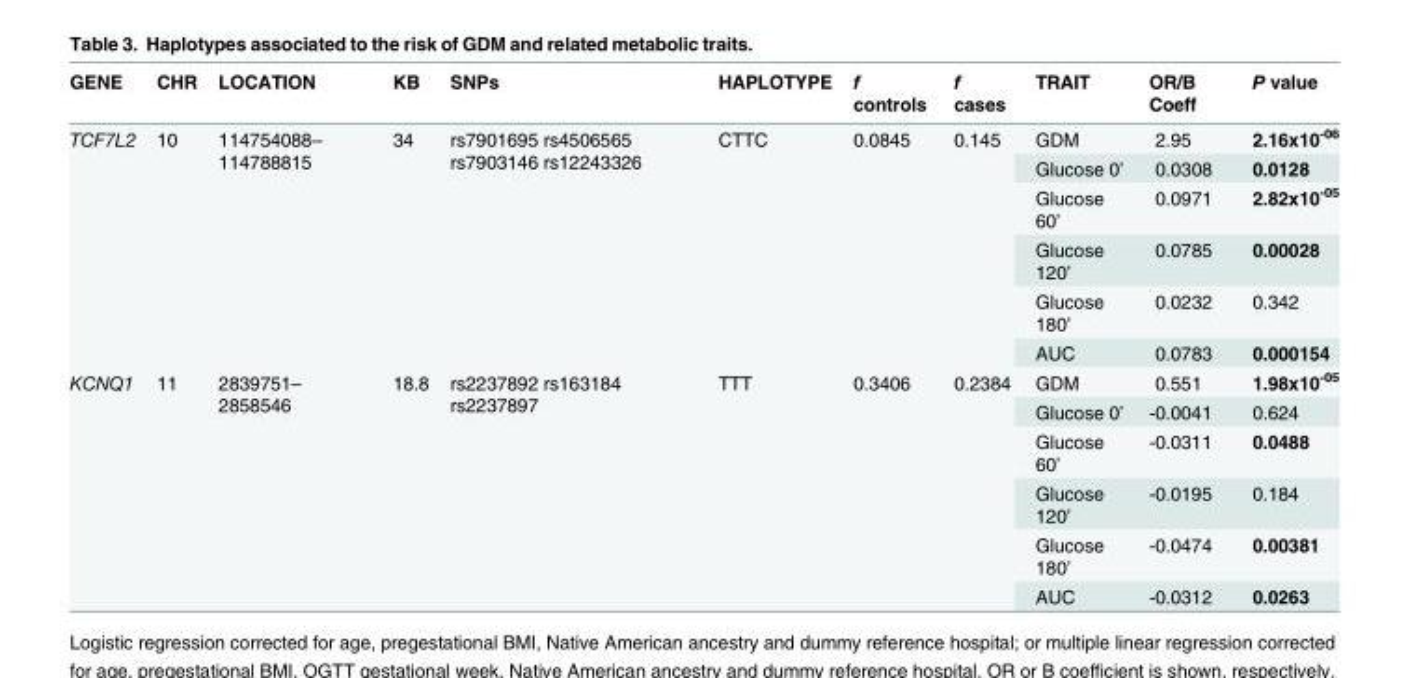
<table><thead><tr><td>GENE</td><td>CHR</td><td>LOCATION</td><td>KB</td><td>SNPs</td><td>HAPLOTYPE</td><td>f controls</td><td>f cases</td><td>TRAIT</td><td>OR/B Coeff</td><td>P value</td></tr></thead><tbody><tr><td rowspan="6">TCF7L2</td><td rowspan="6">10</td><td rowspan="6">114754088– 114788815</td><td rowspan="6">34</td><td rowspan="6">rs7901695 rs4506565 rs7903146 rs12243326</td><td rowspan="6">CTTC</td><td rowspan="6">0.0845</td><td rowspan="6">0.145</td><td>GDM</td><td>2.95</td><td>2.16x10<sup>-06</sup></td></tr><tr><td>Glucose 0’</td><td>0.0308</td><td>0.0128</td></tr><tr><td>Glucose 60’</td><td>0.0971</td><td>2.82x10<sup>-05</sup></td></tr><tr><td>Glucose 120’</td><td>0.0785</td><td>0.00028</td></tr><tr><td>Glucose 180’</td><td>0.0232</td><td>0.342</td></tr><tr><td>AUC</td><td>0.0783</td><td>0.000154</td></tr><tr><td rowspan="6">KCNQ1</td><td rowspan="6">11</td><td rowspan="6">2839751– 2858546</td><td rowspan="6">18.8</td><td rowspan="6">rs2237892 rs163184 rs2237897</td><td rowspan="6">TTT</td><td rowspan="6">0.3406</td><td rowspan="6">0.2384</td><td>GDM</td><td>0.551</td><td>1.98x10<sup>-05</sup></td></tr><tr><td>Glucose 0’</td><td>-0.0041</td><td>0.624</td></tr><tr><td>Glucose 60’</td><td>-0.0311</td><td>0.0488</td></tr><tr><td>Glucose 120’</td><td>-0.0195</td><td>0.184</td></tr><tr><td>Glucose 180’</td><td>-0.0474</td><td>0.00381</td></tr><tr><td>AUC</td><td>-0.0312</td><td>0.0263</td></tr></tbody></table>